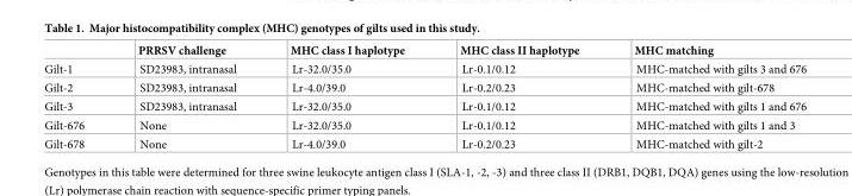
<table><thead><tr><td></td><td>PRRSV challenge</td><td>MHC class I haplotype</td><td>MHC class II haplotype</td><td>MHC matching</td></tr></thead><tbody><tr><td>Gilt-1</td><td>SD23983, intranasal</td><td>Lr-32.0/35.0</td><td>Lr-0.1/0.12</td><td>MHC-matched with gilts 3 and 676</td></tr><tr><td>Gilt-2</td><td>SD23983, intranasal</td><td>Lr-4.0/39.0</td><td>Lr-0.2/0.23</td><td>MHC-matched with gilt-678</td></tr><tr><td>Gilt-3</td><td>SD23983, intranasal</td><td>Lr-32.0/35.0</td><td>Lr-0.1/0.12</td><td>MHC-matched with gilts 1 and 676</td></tr><tr><td>Gilt-676</td><td>None</td><td>Lr-32.0/35.0</td><td>Lr-0.1/0.12</td><td>MHC-matched with gilts 1 and 3</td></tr><tr><td>Gilt-678</td><td>None</td><td>Lr-4.0/39.0</td><td>Lr-0.2/0.23</td><td>MHC-matched with gilt-2</td></tr></tbody></table>